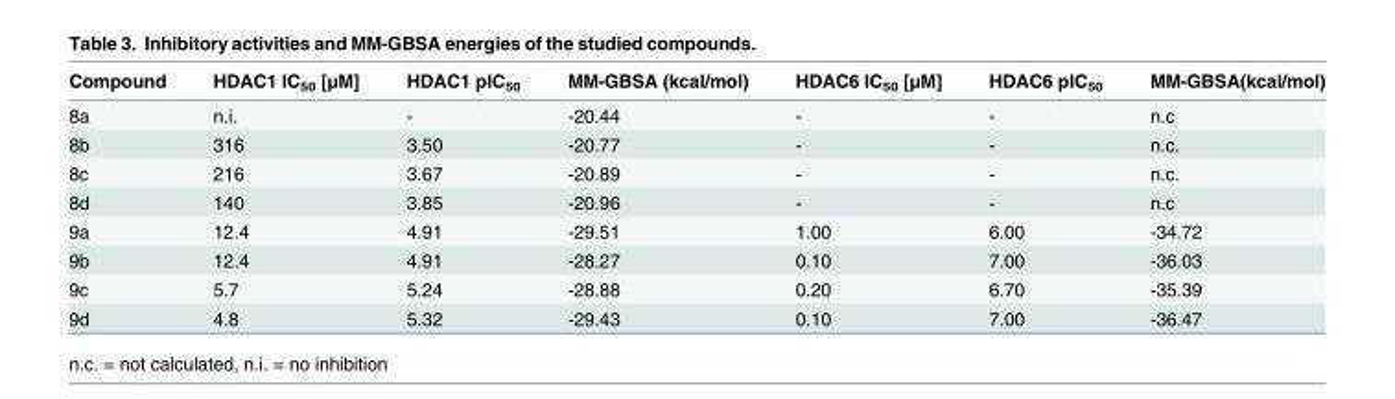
<table><thead><tr><td>Compound</td><td>HDAC1 IC<sub>50</sub> [μM]</td><td>HDAC1 pIC<sub>50</sub></td><td>MM-GBSA (kcal/mol)</td><td>HDAC6 IC<sub>50</sub> [μM]</td><td>HDAC6 pIC<sub>50</sub></td><td>MM-GBSA(kcal/mol)</td></tr></thead><tbody><tr><td>8a</td><td>n.i.</td><td>-</td><td>-20.44</td><td>-</td><td>-</td><td>n.c</td></tr><tr><td>8b</td><td>316</td><td>3.50</td><td>-20.77</td><td>-</td><td>-</td><td>n.c.</td></tr><tr><td>8c</td><td>216</td><td>3.67</td><td>-20.89</td><td>-</td><td>-</td><td>n.c.</td></tr><tr><td>8d</td><td>140</td><td>3.85</td><td>-20.96</td><td>-</td><td>-</td><td>n.c</td></tr><tr><td>9a</td><td>12.4</td><td>4.91</td><td>-29.51</td><td>1.00</td><td>6.00</td><td>-34.72</td></tr><tr><td>9b</td><td>12.4</td><td>4.91</td><td>-28.27</td><td>0.10</td><td>7.00</td><td>-36.03</td></tr><tr><td>9c</td><td>5.7</td><td>5.24</td><td>-28.88</td><td>0.20</td><td>6.70</td><td>-35.39</td></tr><tr><td>9d</td><td>4.8</td><td>5.32</td><td>-29.43</td><td>0.10</td><td>7.00</td><td>-36.47</td></tr></tbody></table>